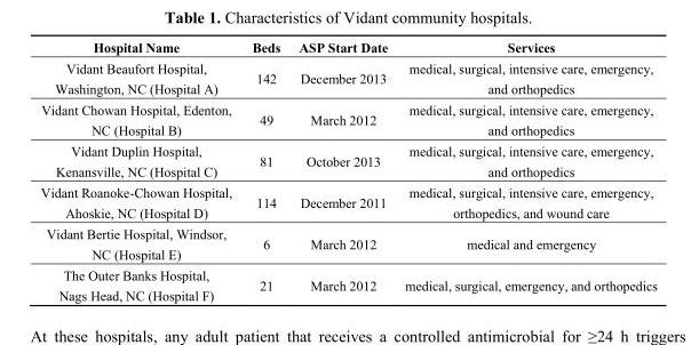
<table><thead><tr><td>Hospital Name</td><td>Beds</td><td>ASP Start Date</td><td>Services</td></tr></thead><tbody><tr><td>Vidant Beaufort Hospital, Washington, NC (Hospital A)</td><td>142</td><td>December 2013</td><td>medical, surgical, intensive care, emergency, and orthopedics</td></tr><tr><td>Vidant Chowan Hospital, Edenton, NC (Hospital B)</td><td>49</td><td>March 2012</td><td>medical, surgical, intensive care, emergency, and orthopedics</td></tr><tr><td>Vidant Duplin Hospital, Kenansville, NC (Hospital C)</td><td>81</td><td>October 2013</td><td>medical, surgical, intensive care, emergency, and orthopedics</td></tr><tr><td>Vidant Roanoke-Chowan Hospital, Ahoskie, NC (Hospital D)</td><td>114</td><td>December 2011</td><td>medical, surgical, intensive care, emergency, orthopedics, and wound care</td></tr><tr><td>Vidant Bertie Hospital, Windsor, NC (Hospital E)</td><td>6</td><td>March 2012</td><td>medical and emergency</td></tr><tr><td>The Outer Banks Hospital, Nags Head, NC (Hospital F)</td><td>21</td><td>March 2012</td><td>medical, surgical, emergency, and orthopedics</td></tr></tbody></table>